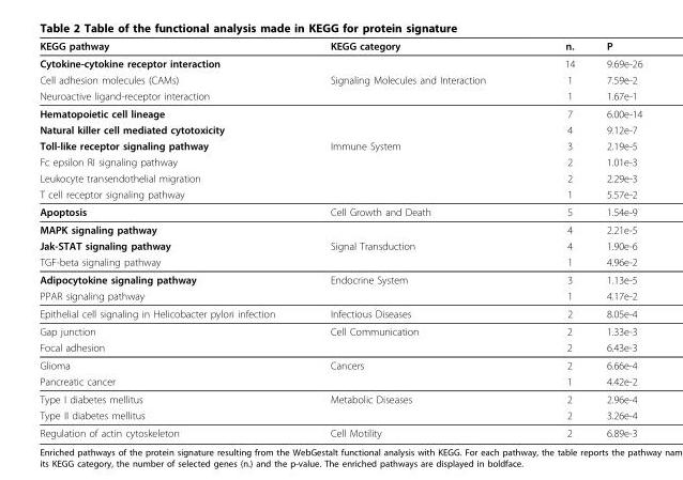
<table><thead><tr><td>KEGG pathway</td><td>KEGG category</td><td>n.</td><td>P</td></tr></thead><tbody><tr><td>Cytokine-cytokine receptor interaction</td><td></td><td>14</td><td>9.69e-26</td></tr><tr><td>Cell adhesion molecules (CAMs)</td><td>Signaling Molecules and Interaction</td><td>1</td><td>7.59e-2</td></tr><tr><td>Neuroactive ligand-receptor interaction</td><td></td><td>1</td><td>1.67e-1</td></tr><tr><td>Hematopoietic cell lineage</td><td></td><td>7</td><td>6.00e-14</td></tr><tr><td>Natural killer cell mediated cytotoxicity</td><td></td><td>4</td><td>9.12e-7</td></tr><tr><td>Toll-like receptor signaling pathway</td><td>Immune System</td><td>3</td><td>2.19e-5</td></tr><tr><td>Fc epsilon RI signaling pathway</td><td></td><td>2</td><td>1.01e-3</td></tr><tr><td>Leukocyte transendothelial migration</td><td></td><td>2</td><td>2.29e-3</td></tr><tr><td>T cell receptor signaling pathway</td><td></td><td>1</td><td>5.57e-2</td></tr><tr><td>Apoptosis</td><td>Cell Growth and Death</td><td>5</td><td>1.54e-9</td></tr><tr><td>MAPK signaling pathway</td><td></td><td>4</td><td>2.21e-5</td></tr><tr><td>Jak-STAT signaling pathway</td><td>Signal Transduction</td><td>4</td><td>1.90e-6</td></tr><tr><td>TGF-beta signaling pathway</td><td></td><td>1</td><td>4.96e-2</td></tr><tr><td>Adipocytokine signaling pathway</td><td>Endocrine System</td><td>3</td><td>1.13e-5</td></tr><tr><td>PPAR signaling pathway</td><td></td><td>1</td><td>4.17e-2</td></tr><tr><td>Epithelial cell signaling in Helicobacter pylori infection</td><td>Infectious Diseases</td><td>2</td><td>8.05e-4</td></tr><tr><td>Gap junction</td><td>Cell Communication</td><td>2</td><td>1.33e-3</td></tr><tr><td>Focal adhesion</td><td></td><td>2</td><td>6.43e-3</td></tr><tr><td>Glioma</td><td>Cancers</td><td>2</td><td>6.66e-4</td></tr><tr><td>Pancreatic cancer</td><td></td><td>1</td><td>4.42e-2</td></tr><tr><td>Type I diabetes mellitus</td><td>Metabolic Diseases</td><td>2</td><td>2.96e-4</td></tr><tr><td>Type II diabetes mellitus</td><td></td><td>2</td><td>3.26e-4</td></tr><tr><td>Regulation of actin cytoskeleton</td><td>Cell Motility</td><td>2</td><td>6.89e-3</td></tr></tbody></table>